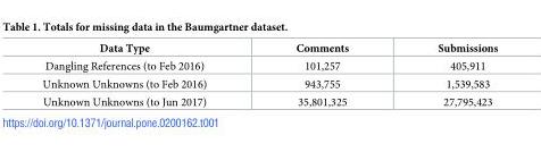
<table><thead><tr><td>Data Type</td><td>Comments</td><td>Submissions</td></tr></thead><tbody><tr><td>Dangling References (to Feb 2016)</td><td>101,257</td><td>405,911</td></tr><tr><td>Unknown Unknowns (to Feb 2016)</td><td>943,755</td><td>1,539,583</td></tr><tr><td>Unknown Unknowns (to Jun 2017)</td><td>35,801,325</td><td>27,795,423</td></tr></tbody></table>